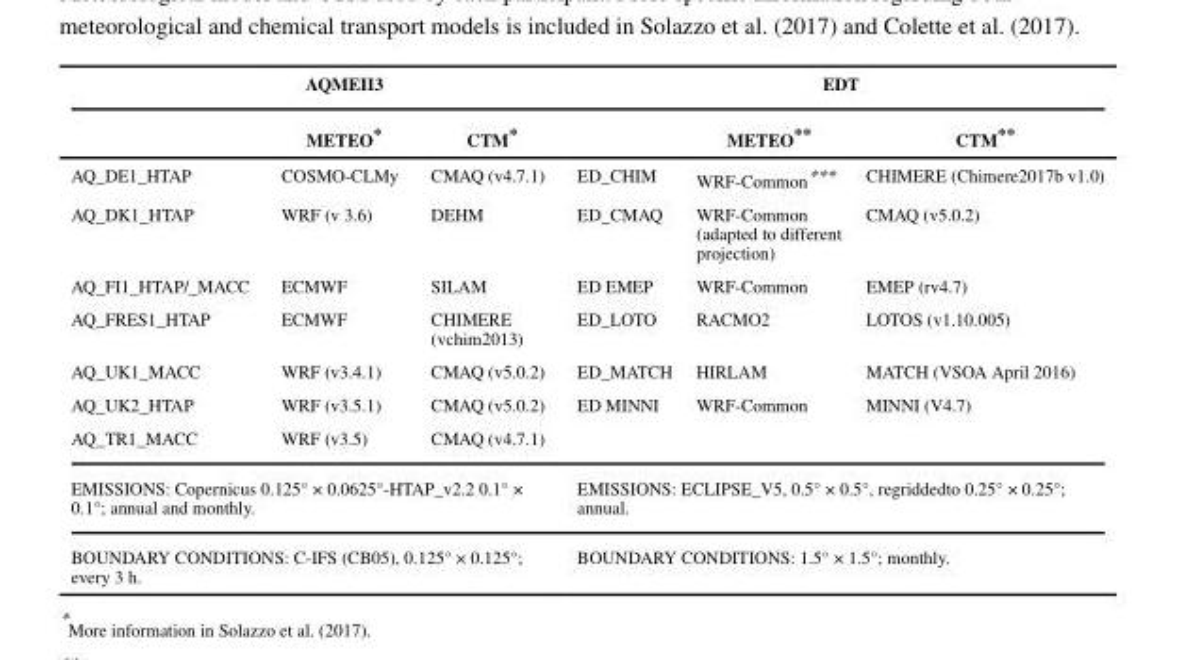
<table><thead><tr><td rowspan="2"></td><td rowspan="2">AQMEII3 METEO*</td><td rowspan="2">CTM*</td><td colspan="3">EDT</td></tr><tr><td></td><td>METEO**</td><td>CTM**</td></tr></thead><tbody><tr><td>AQ_DE1_HTAP</td><td>COSMO-CLMy</td><td>CMAQ (v4.7.1)</td><td>ED_CHIM</td><td>WRF-Common***</td><td>CHIMERE (Chimere2017b v1.0)</td></tr><tr><td>AQ_DK1_HTAP</td><td>WRF (v 3.6)</td><td>DEHM</td><td>ED_CMAQ</td><td>WRF-Common (adapted to different projection)</td><td>CMAQ (v5.0.2)</td></tr><tr><td>AQ_FI1_HTAP/_MACC</td><td>ECMWF</td><td>SILAM</td><td>ED EMEP</td><td>WRF-Common</td><td>EMEP (rv4.7)</td></tr><tr><td>AQ_FRES1_HTAP</td><td>ECMWF</td><td>CHIMERE (vchim2013)</td><td>ED_LOTO</td><td>RACMO2</td><td>LOTOS (v1.10.005)</td></tr><tr><td>AQ_UK1_MACC</td><td>WRF (v3.4.1)</td><td>CMAQ (v5.0.2)</td><td>ED_MATCH</td><td>HIRLAM</td><td>MATCH (VSOA April 2016)</td></tr><tr><td>AQ_UK2_HTAP</td><td>WRF (v3.5.1)</td><td>CMAQ (v5.0.2)</td><td>ED MINNI</td><td>WRF-Common</td><td>MINNI (V4.7)</td></tr><tr><td>AQ_TR1_MACC</td><td>WRF (v3.5)</td><td>CMAQ (v4.7.1)</td><td></td><td></td><td></td></tr><tr><td colspan="3">EMISSIONS: Copernicus 0.125° × 0.0625°-HTAP_v2.2 0.1° × 0.1°; annual and monthly.</td><td colspan="3">EMISSIONS: ECLIPSE_V5, 0.5° × 0.5°, regriddedto 0.25° × 0.25°; annual.</td></tr><tr><td colspan="3">BOUNDARY CONDITIONS: C-IFS (CB05), 0.125° × 0.125°; every 3 h.</td><td colspan="3">BOUNDARY CONDITIONS: 1.5° × 1.5°; monthly.</td></tr></tbody></table>